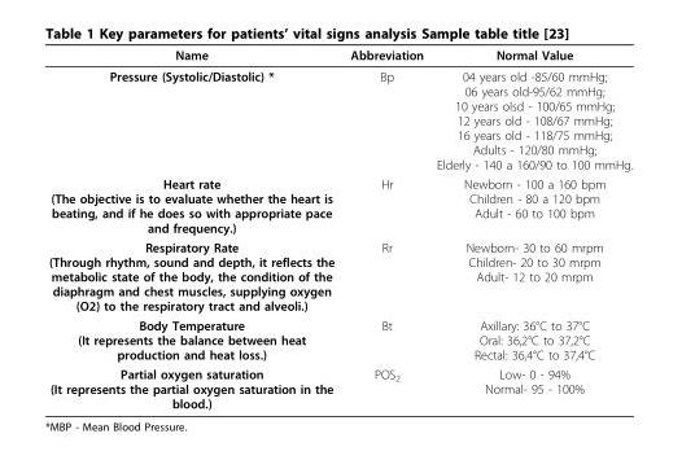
<table><thead><tr><td>Name</td><td>Abbreviation</td><td>Normal Value</td></tr></thead><tbody><tr><td>Pressure (Systolic/Diastolic) *</td><td>Bp</td><td>04 years old -85/60 mmHg; 06 years old-95/62 mmHg; 10 years olsd - 100/65 mmHg; 12 years old - 108/67 mmHg; 16 years old - 118/75 mmHg; Adults - 120/80 mmHg; Elderly - 140 a 160/90 to 100 mmHg.</td></tr><tr><td>Heart rate (The objective is to evaluate whether the heart is beating, and if he does so with appropriate pace and frequency.)</td><td>Hr</td><td>Newborn - 100 a 160 bpm Children - 80 a 120 bpm Adult - 60 to 100 bpm</td></tr><tr><td>Respiratory Rate (Through rhythm, sound and depth, it reflects the metabolic state of the body, the condition of the diaphragm and chest muscles, supplying oxygen (O2) to the respiratory tract and alveoli.)</td><td>Rr</td><td>Newborn- 30 to 60 mrpm Children- 20 to 30 mrpm Adult- 12 to 20 mrpm</td></tr><tr><td>Body Temperature (It represents the balance between heat production and heat loss.)</td><td>Bt</td><td>Axillary: 36°C to 37°C Oral: 36,2°C to 37,2°C Rectal: 36,4°C to 37,4°C</td></tr><tr><td>Partial oxygen saturation (It represents the partial oxygen saturation in the blood.)</td><td>POS<sub>2</sub></td><td>Low- 0 - 94% Normal- 95 - 100%</td></tr></tbody></table>